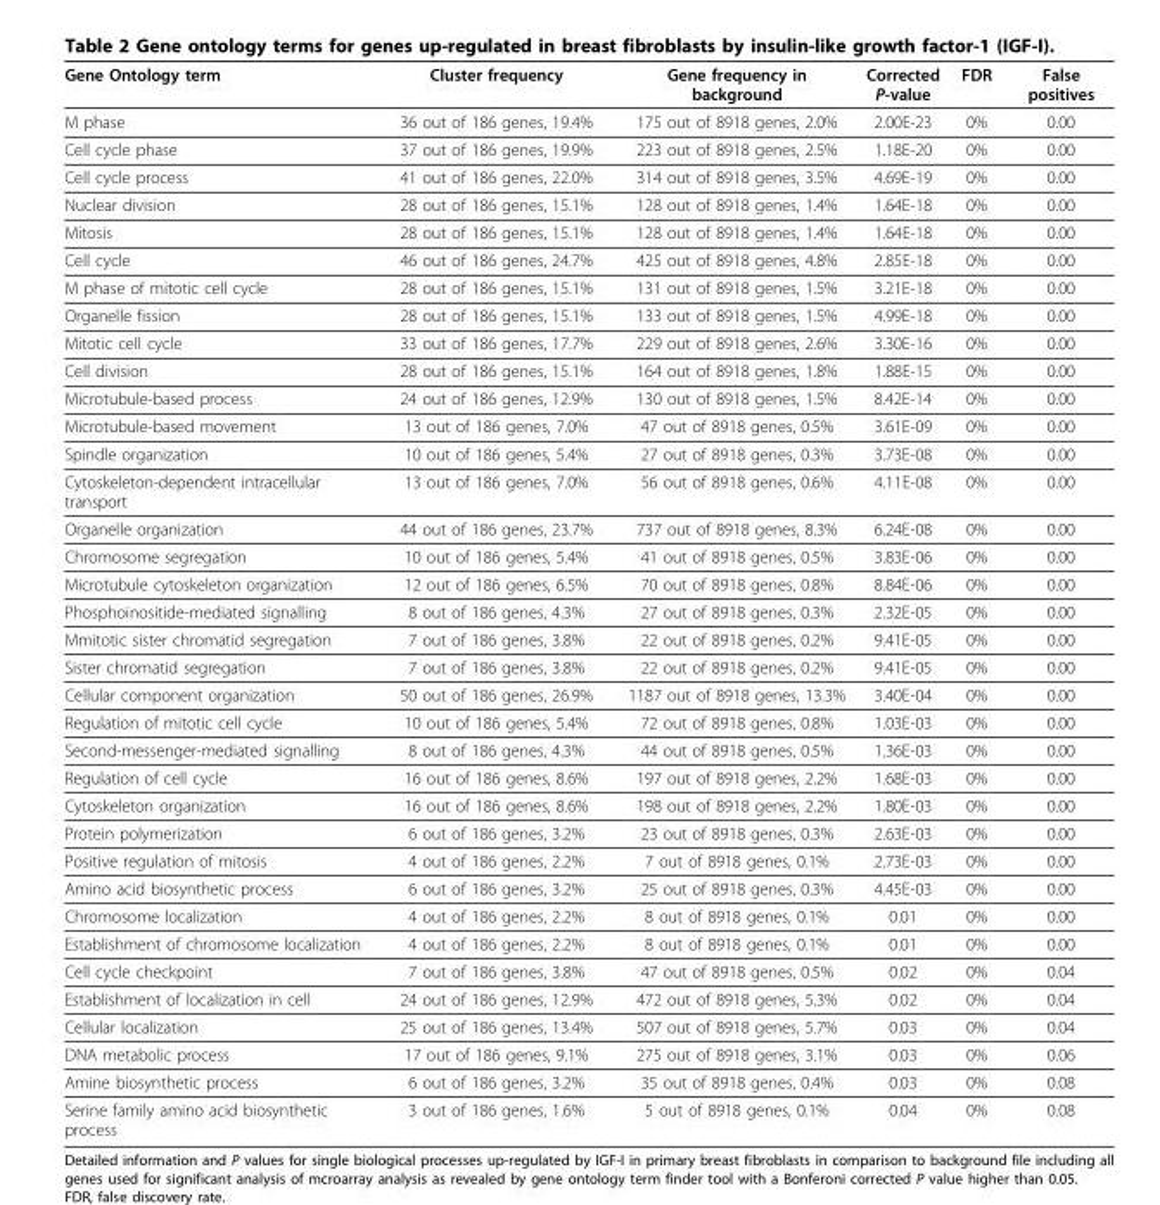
<table><thead><tr><td>Gene Ontology term</td><td>Cluster frequency</td><td>Gene frequency in background</td><td>Corrected P-value</td><td>FDR</td><td>False positives</td></tr></thead><tbody><tr><td>M phase</td><td>36 out of 186 genes, 19.4%</td><td>175 out of 8918 genes, 2.0%</td><td>2.00E-23</td><td>0%</td><td>0.00</td></tr><tr><td>Cell cycle phase</td><td>37 out of 186 genes, 19.9%</td><td>223 out of 8918 genes, 2.5%</td><td>1.18E-20</td><td>0%</td><td>0.00</td></tr><tr><td>Cell cycle process</td><td>41 out of 186 genes, 22.0%</td><td>314 out of 8918 genes, 3.5%</td><td>4.69E-19</td><td>0%</td><td>0.00</td></tr><tr><td>Nuclear division</td><td>28 out of 186 genes, 15.1%</td><td>128 out of 8918 genes, 1.4%</td><td>1.64E-18</td><td>0%</td><td>0.00</td></tr><tr><td>Mitosis</td><td>28 out of 186 genes, 15.1%</td><td>128 out of 8918 genes, 1.4%</td><td>1.64E-18</td><td>0%</td><td>0.00</td></tr><tr><td>Cell cycle</td><td>46 out of 186 genes, 24.7%</td><td>425 out of 8918 genes, 4.8%</td><td>2.85E-18</td><td>0%</td><td>0.00</td></tr><tr><td>M phase of mitotic cell cycle</td><td>28 out of 186 genes, 15.1%</td><td>131 out of 8918 genes, 1.5%</td><td>3.21E-18</td><td>0%</td><td>0.00</td></tr><tr><td>Organelle fission</td><td>28 out of 186 genes, 15.1%</td><td>133 out of 8918 genes, 1.5%</td><td>4.99E-18</td><td>0%</td><td>0.00</td></tr><tr><td>Mitotic cell cycle</td><td>33 out of 186 genes, 17.7%</td><td>229 out of 8918 genes, 2.6%</td><td>3.30E-16</td><td>0%</td><td>0.00</td></tr><tr><td>Cell division</td><td>28 out of 186 genes, 15.1%</td><td>164 out of 8918 genes, 1.8%</td><td>1.88E-15</td><td>0%</td><td>0.00</td></tr><tr><td>Microtubule-based process</td><td>24 out of 186 genes, 12.9%</td><td>130 out of 8918 genes, 1.5%</td><td>8.42E-14</td><td>0%</td><td>0.00</td></tr><tr><td>Microtubule-based movement</td><td>13 out of 186 genes, 7.0%</td><td>47 out of 8918 genes, 0.5%</td><td>3.61E-09</td><td>0%</td><td>0.00</td></tr><tr><td>Spindle organization</td><td>10 out of 186 genes, 5.4%</td><td>27 out of 8918 genes, 0.3%</td><td>3.73E-08</td><td>0%</td><td>0.00</td></tr><tr><td>Cytoskeleton-dependent intracellular transport</td><td>13 out of 186 genes, 7.0%</td><td>56 out of 8918 genes, 0.6%</td><td>4.11E-08</td><td>0%</td><td>0.00</td></tr><tr><td>Organelle organization</td><td>44 out of 186 genes, 23.7%</td><td>737 out of 8918 genes, 8.3%</td><td>6.24E-08</td><td>0%</td><td>0.00</td></tr><tr><td>Chromosome segregation</td><td>10 out of 186 genes, 5.4%</td><td>41 out of 8918 genes, 0.5%</td><td>3.83E-06</td><td>0%</td><td>0.00</td></tr><tr><td>Microtubule cytoskeleton organization</td><td>12 out of 186 genes, 6.5%</td><td>70 out of 8918 genes, 0.8%</td><td>8.84E-06</td><td>0%</td><td>0.00</td></tr><tr><td>Phosphoinositide-mediated signalling</td><td>8 out of 186 genes, 4.3%</td><td>27 out of 8918 genes, 0.3%</td><td>2.32E-05</td><td>0%</td><td>0.00</td></tr><tr><td>Mmitotic sister chromatid segregation</td><td>7 out of 186 genes, 3.8%</td><td>22 out of 8918 genes, 0.2%</td><td>9.41E-05</td><td>0%</td><td>0.00</td></tr><tr><td>Sister chromatid segregation</td><td>7 out of 186 genes, 3.8%</td><td>22 out of 8918 genes, 0.2%</td><td>9.41E-05</td><td>0%</td><td>0.00</td></tr><tr><td>Cellular component organization</td><td>50 out of 186 genes, 26.9%</td><td>1187 out of 8918 genes, 13.3%</td><td>3.40E-04</td><td>0%</td><td>0.00</td></tr><tr><td>Regulation of mitotic cell cycle</td><td>10 out of 186 genes, 5.4%</td><td>72 out of 8918 genes, 0.8%</td><td>1.03E-03</td><td>0%</td><td>0.00</td></tr><tr><td>Second-messenger-mediated signalling</td><td>8 out of 186 genes, 4.3%</td><td>44 out of 8918 genes, 0.5%</td><td>1.36E-03</td><td>0%</td><td>0.00</td></tr><tr><td>Regulation of cell cycle</td><td>16 out of 186 genes, 8.6%</td><td>197 out of 8918 genes, 2.2%</td><td>1.68E-03</td><td>0%</td><td>0.00</td></tr><tr><td>Cytoskeleton organization</td><td>16 out of 186 genes, 8.6%</td><td>198 out of 8918 genes, 2.2%</td><td>1.80E-03</td><td>0%</td><td>0.00</td></tr><tr><td>Protein polymerization</td><td>6 out of 186 genes, 3.2%</td><td>23 out of 8918 genes, 0.3%</td><td>2.63E-03</td><td>0%</td><td>0.00</td></tr><tr><td>Positive regulation of mitosis</td><td>4 out of 186 genes, 2.2%</td><td>7 out of 8918 genes, 0.1%</td><td>2.73E-03</td><td>0%</td><td>0.00</td></tr><tr><td>Amino acid biosynthetic process</td><td>6 out of 186 genes, 3.2%</td><td>25 out of 8918 genes, 0.3%</td><td>4.45E-03</td><td>0%</td><td>0.00</td></tr><tr><td>Chromosome localization</td><td>4 out of 186 genes, 2.2%</td><td>8 out of 8918 genes, 0.1%</td><td>0.01</td><td>0%</td><td>0.00</td></tr><tr><td>Establishment of chromosome localization</td><td>4 out of 186 genes, 2.2%</td><td>8 out of 8918 genes, 0.1%</td><td>0.01</td><td>0%</td><td>0.00</td></tr><tr><td>Cell cycle checkpoint</td><td>7 out of 186 genes, 3.8%</td><td>47 out of 8918 genes, 0.5%</td><td>0.02</td><td>0%</td><td>0.04</td></tr><tr><td>Establishment of localization in cell</td><td>24 out of 186 genes, 12.9%</td><td>472 out of 8918 genes, 5.3%</td><td>0.02</td><td>0%</td><td>0.04</td></tr><tr><td>Cellular localization</td><td>25 out of 186 genes, 13.4%</td><td>507 out of 8918 genes, 5.7%</td><td>0.03</td><td>0%</td><td>0.04</td></tr><tr><td>DNA metabolic process</td><td>17 out of 186 genes, 9.1%</td><td>275 out of 8918 genes, 3.1%</td><td>0.03</td><td>0%</td><td>0.06</td></tr><tr><td>Amine biosynthetic process</td><td>6 out of 186 genes, 3.2%</td><td>35 out of 8918 genes, 0.4%</td><td>0.03</td><td>0%</td><td>0.08</td></tr><tr><td>Serine family amino acid biosynthetic process</td><td>3 out of 186 genes, 1.6%</td><td>5 out of 8918 genes, 0.1%</td><td>0.04</td><td>0%</td><td>0.08</td></tr></tbody></table>